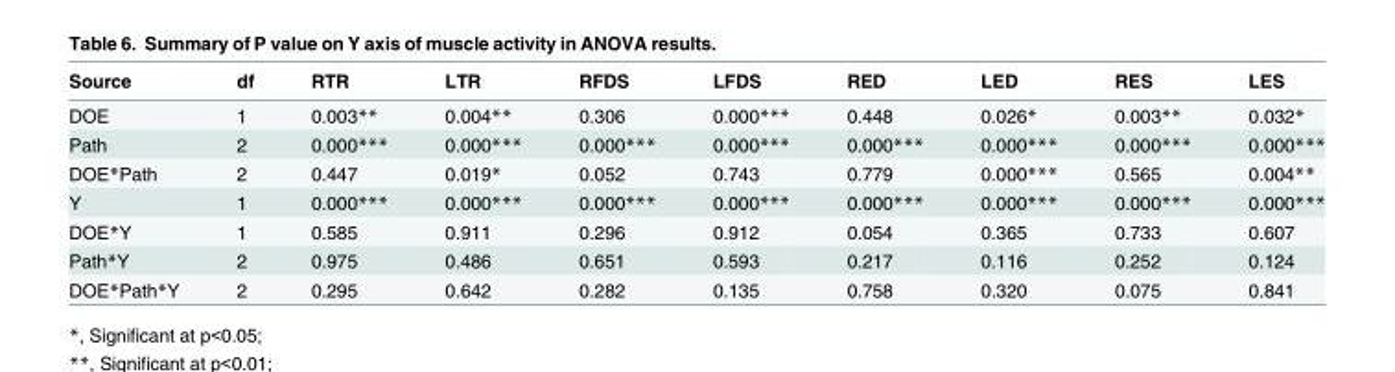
<table><thead><tr><td>Source</td><td>df</td><td>RTR</td><td>LTR</td><td>RFDS</td><td>LFDS</td><td>RED</td><td>LED</td><td>RES</td><td>LES</td></tr></thead><tbody><tr><td>DOE</td><td>1</td><td>0.003**</td><td>0.004**</td><td>0.306</td><td>0.000***</td><td>0.448</td><td>0.026*</td><td>0.003**</td><td>0.032*</td></tr><tr><td>Path</td><td>2</td><td>0.000***</td><td>0.000***</td><td>0.000***</td><td>0.000***</td><td>0.000***</td><td>0.000***</td><td>0.000***</td><td>0.000***</td></tr><tr><td>DOE*Path</td><td>2</td><td>0.447</td><td>0.019*</td><td>0.052</td><td>0.743</td><td>0.779</td><td>0.000***</td><td>0.565</td><td>0.004**</td></tr><tr><td>Y</td><td>1</td><td>0.000***</td><td>0.000***</td><td>0.000***</td><td>0.000***</td><td>0.000***</td><td>0.000***</td><td>0.000***</td><td>0.000***</td></tr><tr><td>DOE*Y</td><td>1</td><td>0.585</td><td>0.911</td><td>0.296</td><td>0.912</td><td>0.054</td><td>0.365</td><td>0.733</td><td>0.607</td></tr><tr><td>Path*Y</td><td>2</td><td>0.975</td><td>0.486</td><td>0.651</td><td>0.593</td><td>0.217</td><td>0.116</td><td>0.252</td><td>0.124</td></tr><tr><td>DOE*Path*Y</td><td>2</td><td>0.295</td><td>0.642</td><td>0.282</td><td>0.135</td><td>0.758</td><td>0.320</td><td>0.075</td><td>0.841</td></tr></tbody></table>